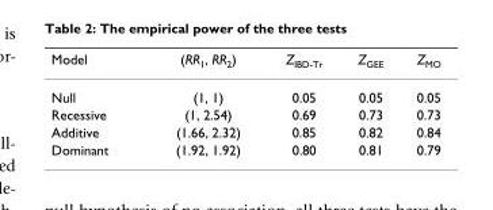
<table><thead><tr><td>Model</td><td>(RR<sub>1</sub>, RR<sub>2</sub>)</td><td>Z<sub>IBD-Tr</sub></td><td>Z<sub>GEE</sub></td><td>Z<sub>MO</sub></td></tr></thead><tbody><tr><td>Null</td><td>(1, 1)</td><td>0.05</td><td>0.05</td><td>0.05</td></tr><tr><td>Recessive</td><td>(1, 2.54)</td><td>0.69</td><td>0.73</td><td>0.73</td></tr><tr><td>Additive</td><td>(1.66, 2.32)</td><td>0.85</td><td>0.82</td><td>0.84</td></tr><tr><td>Dominant</td><td>(1.92, 1.92)</td><td>0.80</td><td>0.81</td><td>0.79</td></tr></tbody></table>